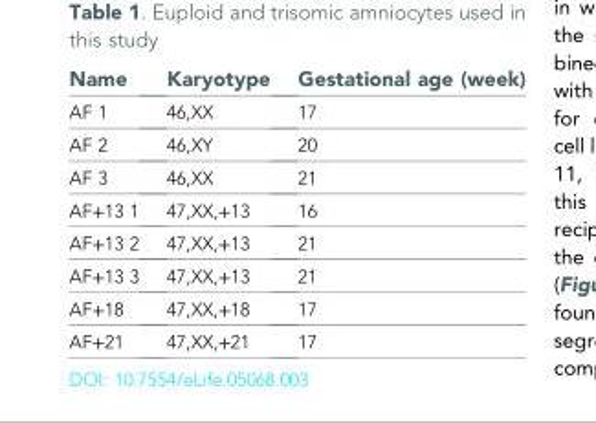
<table><thead><tr><td>Name</td><td>Karyotype</td><td>Gestational age (week)</td></tr></thead><tbody><tr><td>AF 1</td><td>46,XX</td><td>17</td></tr><tr><td>AF 2</td><td>46,XY</td><td>20</td></tr><tr><td>AF 3</td><td>46,XX</td><td>21</td></tr><tr><td>AF+13 1</td><td>47,XX,+13</td><td>16</td></tr><tr><td>AF+13 2</td><td>47,XX,+13</td><td>21</td></tr><tr><td>AF+13 3</td><td>47,XX,+13</td><td>21</td></tr><tr><td>AF+18</td><td>47,XX,+18</td><td>17</td></tr><tr><td>AF+21</td><td>47,XX,+21</td><td>17</td></tr></tbody></table>